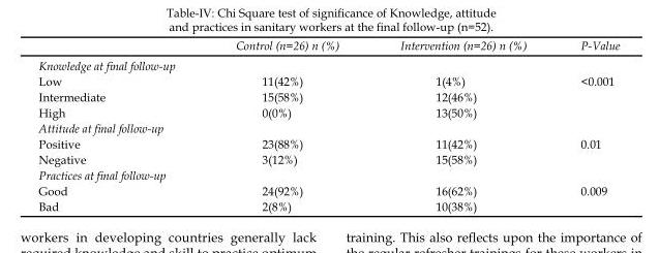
<table><thead><tr><td></td><td>Control (n=26) n (%)</td><td>Intervention (n=26) n (%)</td><td>P-Value</td></tr></thead><tbody><tr><td colspan="4">Knowledge at final follow-up</td></tr><tr><td>Low</td><td>11(42%)</td><td>1(4%)</td><td>&lt;0.001</td></tr><tr><td>Intermediate</td><td>15(58%)</td><td>12(46%)</td><td></td></tr><tr><td>High</td><td>0(0%)</td><td>13(50%)</td><td></td></tr><tr><td colspan="4">Attitude at final follow-up</td></tr><tr><td>Positive</td><td>23(88%)</td><td>11(42%)</td><td>0.01</td></tr><tr><td>Negative</td><td>3(12%)</td><td>15(58%)</td><td></td></tr><tr><td colspan="4">Practices at final follow-up</td></tr><tr><td>Good</td><td>24(92%)</td><td>16(62%)</td><td>0.009</td></tr><tr><td>Bad</td><td>2(8%)</td><td>10(38%)</td><td></td></tr></tbody></table>